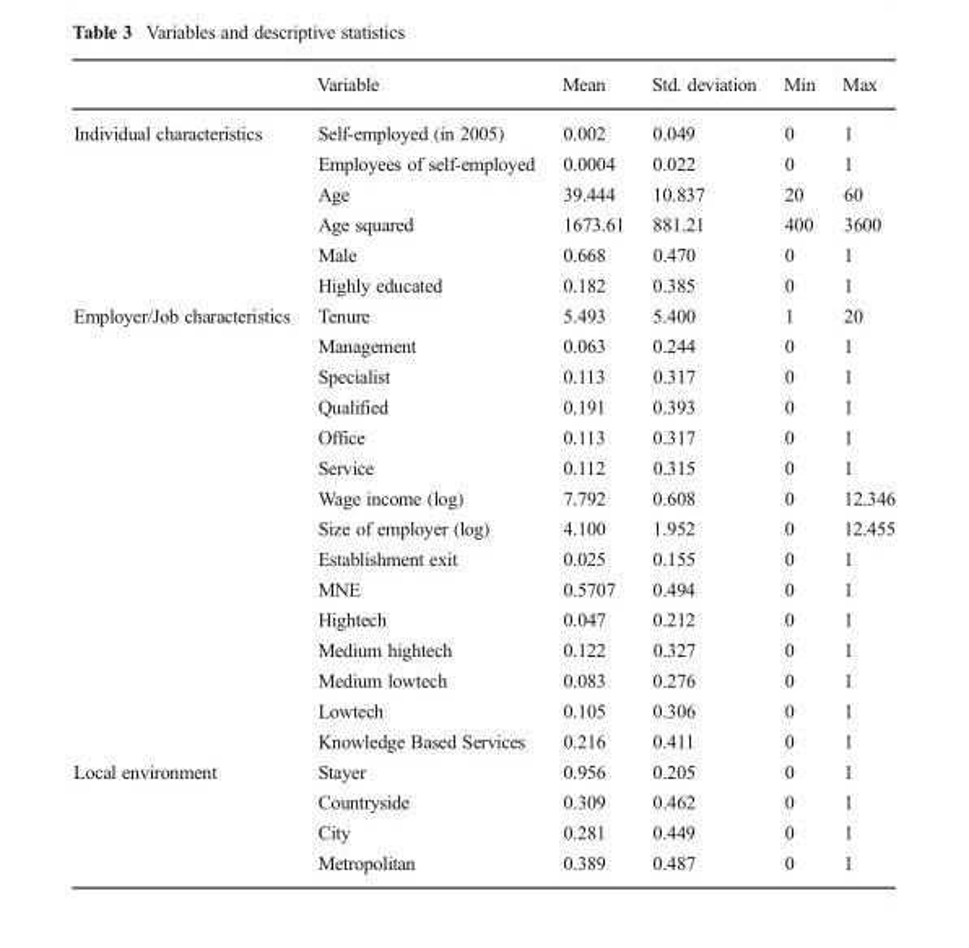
<table><thead><tr><td></td><td>Variable</td><td>Mean</td><td>Std. deviation</td><td>Min</td><td>Max</td></tr></thead><tbody><tr><td rowspan="6">Individual characteristics</td><td>Self-employed (in 2005)</td><td>0.002</td><td>0.049</td><td>0</td><td>1</td></tr><tr><td>Employees of self-employed</td><td>0.0004</td><td>0.022</td><td>0</td><td>1</td></tr><tr><td>Age</td><td>39.444</td><td>10.837</td><td>20</td><td>60</td></tr><tr><td>Age squared</td><td>1673.61</td><td>881.21</td><td>400</td><td>3600</td></tr><tr><td>Male</td><td>0.668</td><td>0.470</td><td>0</td><td>1</td></tr><tr><td>Highly educated</td><td>0.182</td><td>0.385</td><td>0</td><td>1</td></tr><tr><td rowspan="15">Employer/Job characteristics</td><td>Tenure</td><td>5.493</td><td>5.400</td><td>1</td><td>20</td></tr><tr><td>Management</td><td>0.063</td><td>0.244</td><td>0</td><td>1</td></tr><tr><td>Specialist</td><td>0.113</td><td>0.317</td><td>0</td><td>1</td></tr><tr><td>Qualified</td><td>0.191</td><td>0.393</td><td>0</td><td>1</td></tr><tr><td>Office</td><td>0.113</td><td>0.317</td><td>0</td><td>1</td></tr><tr><td>Service</td><td>0.112</td><td>0.315</td><td>0</td><td>1</td></tr><tr><td>Wage income (log)</td><td>7.792</td><td>0.608</td><td>0</td><td>12.346</td></tr><tr><td>Size of employer (log)</td><td>4.100</td><td>1.952</td><td>0</td><td>12.455</td></tr><tr><td>Establishment exit</td><td>0.025</td><td>0.155</td><td>0</td><td>1</td></tr><tr><td>MNE</td><td>0.5707</td><td>0.494</td><td>0</td><td>1</td></tr><tr><td>Hightech</td><td>0.047</td><td>0.212</td><td>0</td><td>1</td></tr><tr><td>Medium hightech</td><td>0.122</td><td>0.327</td><td>0</td><td>1</td></tr><tr><td>Medium lowtech</td><td>0.083</td><td>0.276</td><td>0</td><td>1</td></tr><tr><td>Lowtech</td><td>0.105</td><td>0.306</td><td>0</td><td>1</td></tr><tr><td>Knowledge Based Services</td><td>0.216</td><td>0.411</td><td>0</td><td>1</td></tr><tr><td rowspan="4">Local environment</td><td>Stayer</td><td>0.956</td><td>0.205</td><td>0</td><td>1</td></tr><tr><td>Countryside</td><td>0.309</td><td>0.462</td><td>0</td><td>1</td></tr><tr><td>City</td><td>0.281</td><td>0.449</td><td>0</td><td>1</td></tr><tr><td>Metropolitan</td><td>0.389</td><td>0.487</td><td>0</td><td>1</td></tr></tbody></table>